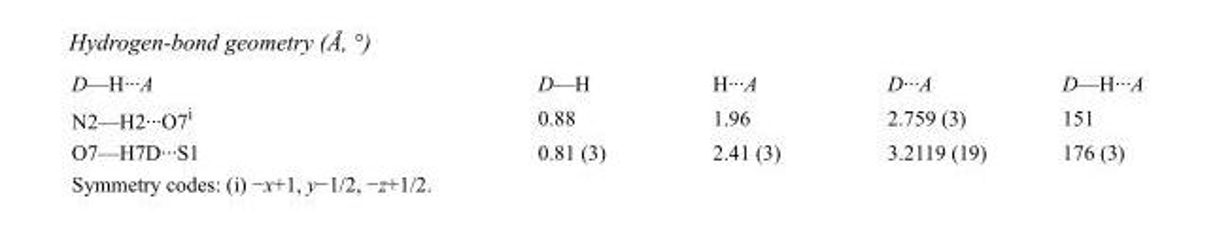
<table><tbody><tr><td>D—H···A</td><td>D—H</td><td>H···A</td><td>D···A</td><td>D—H···A</td></tr><tr><td>N2—H2···O7<sup>i</sup></td><td>0.88</td><td>1.96</td><td>2.759 (3)</td><td>151</td></tr><tr><td>O7—H7D···S1</td><td>0.81 (3)</td><td>2.41 (3)</td><td>3.2119 (19)</td><td>176 (3)</td></tr></tbody></table>